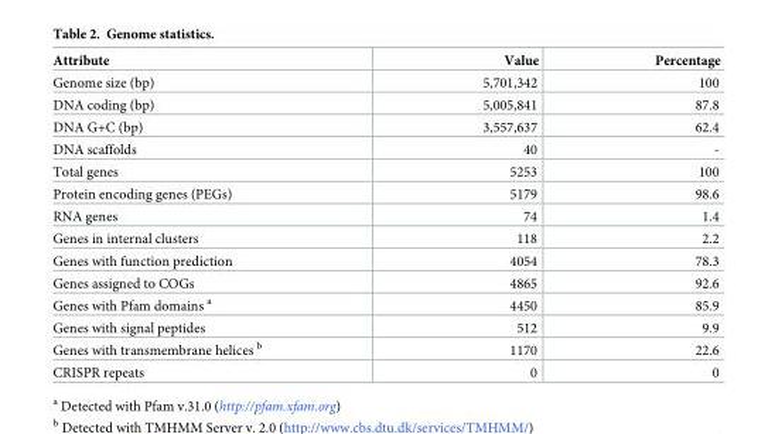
<table><thead><tr><td>Attribute</td><td>Value</td><td>Percentage</td></tr></thead><tbody><tr><td>Genome size (bp)</td><td>5,701,342</td><td>100</td></tr><tr><td>DNA coding (bp)</td><td>5,005,841</td><td>87.8</td></tr><tr><td>DNA G+C (bp)</td><td>3,557,637</td><td>62.4</td></tr><tr><td>DNA scaffolds</td><td>40</td><td>-</td></tr><tr><td>Total genes</td><td>5253</td><td>100</td></tr><tr><td>Protein encoding genes (PEGs)</td><td>5179</td><td>98.6</td></tr><tr><td>RNA genes</td><td>74</td><td>1.4</td></tr><tr><td>Genes in internal clusters</td><td>118</td><td>2.2</td></tr><tr><td>Genes with function prediction</td><td>4054</td><td>78.3</td></tr><tr><td>Genes assigned to COGs</td><td>4865</td><td>92.6</td></tr><tr><td>Genes with Pfam domains <sup>a</sup></td><td>4450</td><td>85.9</td></tr><tr><td>Genes with signal peptides</td><td>512</td><td>9.9</td></tr><tr><td>Genes with transmembrane helices <sup>b</sup></td><td>1170</td><td>22.6</td></tr><tr><td>CRISPR repeats</td><td>0</td><td>0</td></tr></tbody></table>